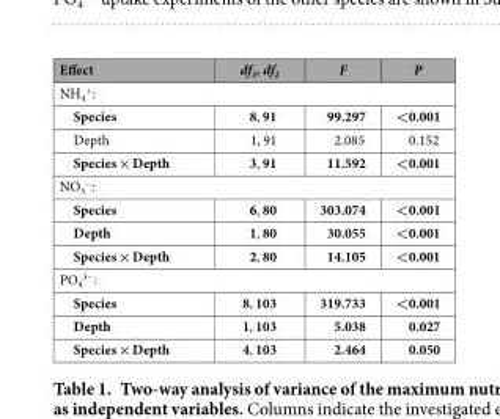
<table><thead><tr><td>Effect</td><td>df<sub>1</sub>, df<sub>2</sub></td><td>F</td><td>P</td></tr></thead><tbody><tr><td colspan="4">NH<sub>4</sub> <sup>+</sup>:</td></tr><tr><td>Species</td><td>8, 91</td><td>99.297</td><td>&lt;0.001</td></tr><tr><td>Depth</td><td>1, 91</td><td>2.085</td><td>0.152</td></tr><tr><td>Species × Depth</td><td>3, 91</td><td>11.592</td><td>&lt;0.001</td></tr><tr><td colspan="4">NO<sub>3</sub> <sup>−</sup>:</td></tr><tr><td>Species</td><td>6, 80</td><td>303.074</td><td>&lt;0.001</td></tr><tr><td>Depth</td><td>1, 80</td><td>30.055</td><td>&lt;0.001</td></tr><tr><td>Species × Depth</td><td>2, 80</td><td>14.105</td><td>&lt;0.001</td></tr><tr><td colspan="4">PO<sub>4</sub> <sup>3−</sup>:</td></tr><tr><td>Species</td><td>8, 103</td><td>319.733</td><td>&lt;0.001</td></tr><tr><td>Depth</td><td>1, 103</td><td>5.038</td><td>0.027</td></tr><tr><td>Species × Depth</td><td>4, 103</td><td>2.464</td><td>0.050</td></tr></tbody></table>